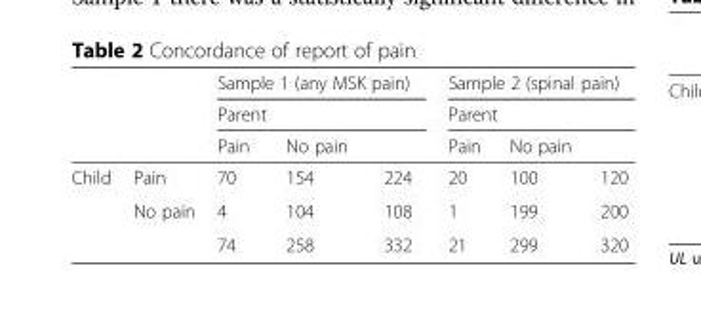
<table><thead><tr><td rowspan="3"></td><td rowspan="3"></td><td rowspan="2" colspan="3">Sample 1 (any MSK pain) Parent</td><td rowspan="2" colspan="3">Sample 2 (spinal pain) Parent</td></tr><tr></tr><tr><td>Pain</td><td>No pain</td><td></td><td>Pain</td><td>No pain</td><td></td></tr></thead><tbody><tr><td rowspan="3">Child</td><td>Pain</td><td>70</td><td>154</td><td>224</td><td>20</td><td>100</td><td>120</td></tr><tr><td>No pain</td><td>4</td><td>104</td><td>108</td><td>1</td><td>199</td><td>200</td></tr><tr><td></td><td>74</td><td>258</td><td>332</td><td>21</td><td>299</td><td>320</td></tr></tbody></table>